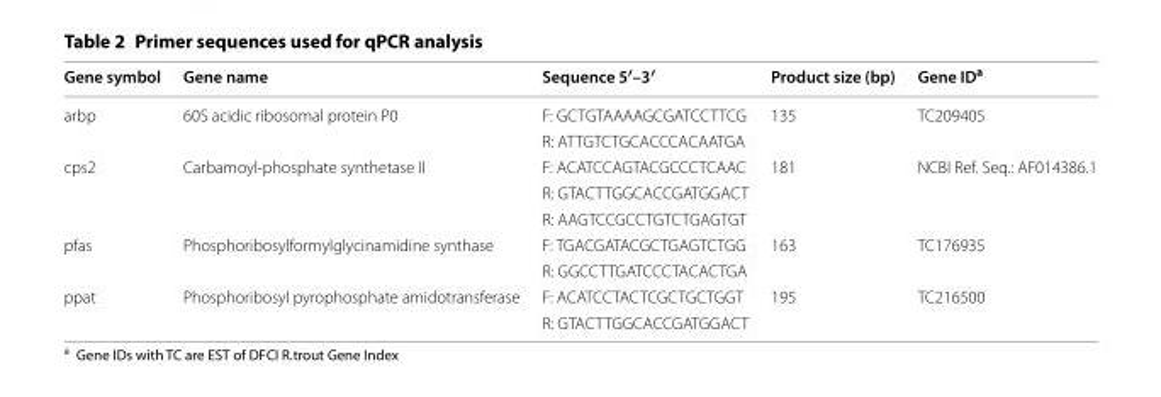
<table><thead><tr><td>Gene symbol</td><td>Gene name</td><td>Sequence 5′–3′</td><td>Product size (bp)</td><td>Gene ID<sup>a</sup></td></tr></thead><tbody><tr><td rowspan="2">arbp</td><td rowspan="2">60S acidic ribosomal protein P0</td><td>F: GCTGTAAAAGCGATCCTTCG</td><td rowspan="2">135</td><td rowspan="2">TC209405</td></tr><tr><td>R: ATTGTCTGCACCCACAATGA</td></tr><tr><td rowspan="3">cps2</td><td rowspan="3">Carbamoyl-phosphate synthetase II</td><td>F: ACATCCAGTACGCCCTCAAC</td><td rowspan="3">181</td><td rowspan="3">NCBI Ref. Seq.: AF014386.1</td></tr><tr><td>R: GTACTTGGCACCGATGGACT</td></tr><tr><td>R: AAGTCCGCCTGTCTGAGTGT</td></tr><tr><td rowspan="2">pfas</td><td rowspan="2">Phosphoribosylformylglycinamidine synthase</td><td>F: TGACGATACGCTGAGTCTGG</td><td rowspan="2">163</td><td rowspan="2">TC176935</td></tr><tr><td>R: GGCCTTGATCCCTACACTGA</td></tr><tr><td rowspan="2">ppat</td><td rowspan="2">Phosphoribosyl pyrophosphate amidotransferase</td><td>F: ACATCCTACTCGCTGCTGGT</td><td rowspan="2">195</td><td rowspan="2">TC216500</td></tr><tr><td>R: GTACTTGGCACCGATGGACT</td></tr></tbody></table>